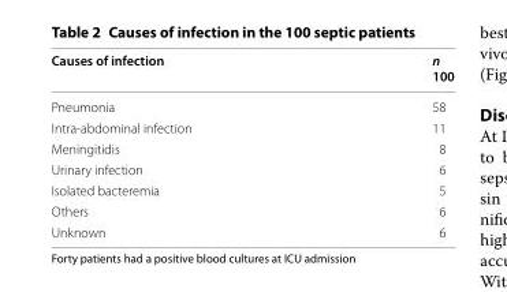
<table><thead><tr><td>Causes of infection</td><td>n 100</td></tr></thead><tbody><tr><td>Pneumonia</td><td>58</td></tr><tr><td>Intra-abdominal infection</td><td>11</td></tr><tr><td>Meningitidis</td><td>8</td></tr><tr><td>Urinary infection</td><td>6</td></tr><tr><td>Isolated bacteremia</td><td>5</td></tr><tr><td>Others</td><td>6</td></tr><tr><td>Unknown</td><td>6</td></tr></tbody></table>